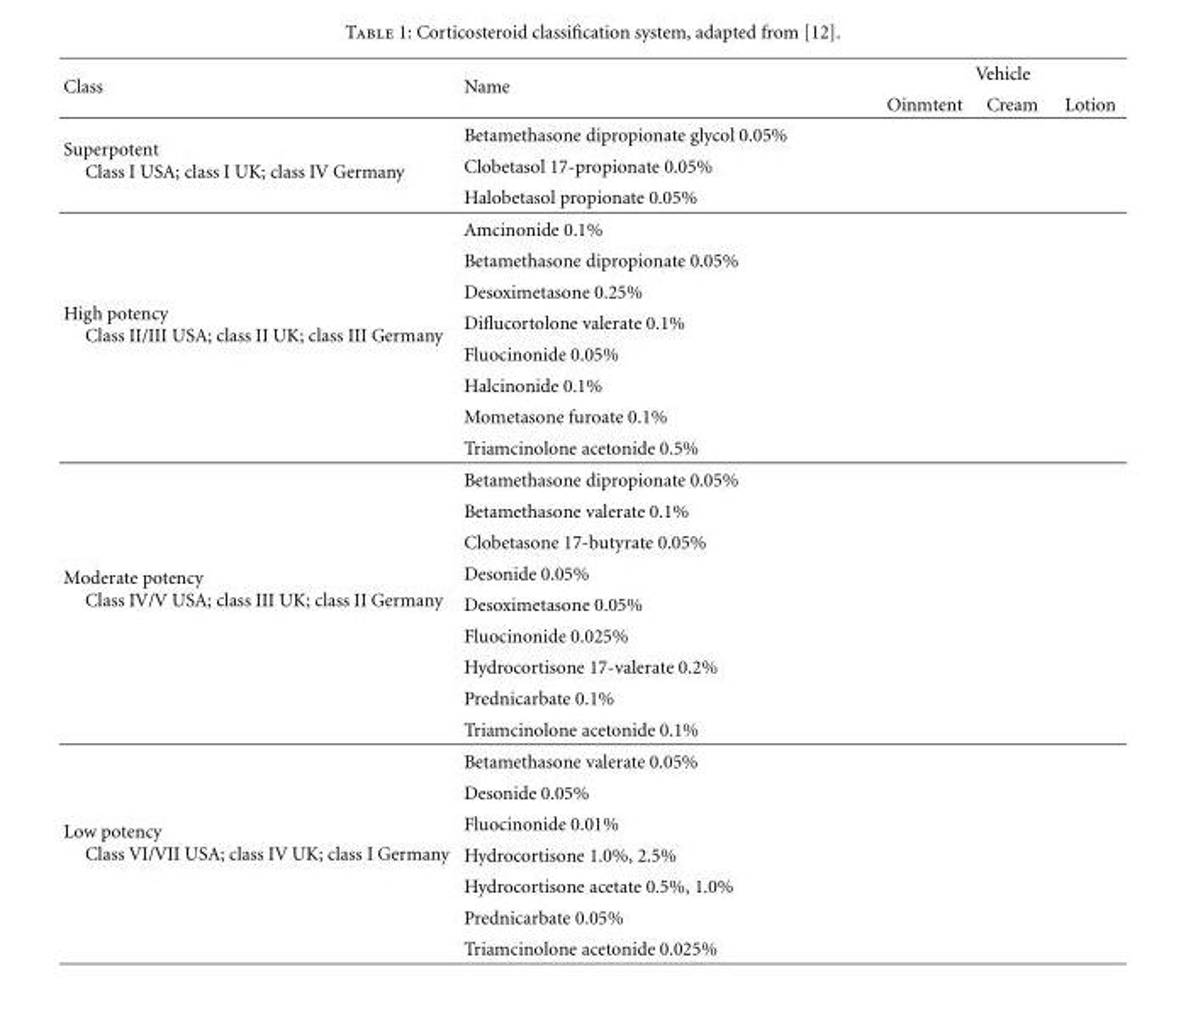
<table><thead><tr><td rowspan="2">Class</td><td rowspan="2">Name</td><td colspan="3">Vehicle</td></tr><tr><td>Oinmtent</td><td>Cream</td><td>Lotion</td></tr></thead><tbody><tr><td rowspan="3">Superpotent Class I USA; class I UK; class IV Germany</td><td>Betamethasone dipropionate glycol 0.05%</td><td></td><td></td><td></td></tr><tr><td>Clobetasol 17-propionate 0.05%</td><td></td><td></td><td></td></tr><tr><td>Halobetasol propionate 0.05%</td><td></td><td></td><td></td></tr><tr><td rowspan="8">High potency Class II/III USA; class II UK; class III Germany</td><td>Amcinonide 0.1%</td><td></td><td></td><td></td></tr><tr><td>Betamethasone dipropionate 0.05%</td><td></td><td></td><td></td></tr><tr><td>Desoximetasone 0.25%</td><td></td><td></td><td></td></tr><tr><td>Diflucortolone valerate 0.1%</td><td></td><td></td><td></td></tr><tr><td>Fluocinonide 0.05%</td><td></td><td></td><td></td></tr><tr><td>Halcinonide 0.1%</td><td></td><td></td><td></td></tr><tr><td>Mometasone furoate 0.1%</td><td></td><td></td><td></td></tr><tr><td>Triamcinolone acetonide 0.5%</td><td></td><td></td><td></td></tr><tr><td rowspan="9">Moderate potency Class IV/V USA; class III UK; class II Germany</td><td>Betamethasone dipropionate 0.05%</td><td></td><td></td><td></td></tr><tr><td>Betamethasone valerate 0.1%</td><td></td><td></td><td></td></tr><tr><td>Clobetasone 17-butyrate 0.05%</td><td></td><td></td><td></td></tr><tr><td>Desonide 0.05%</td><td></td><td></td><td></td></tr><tr><td>Desoximetasone 0.05%</td><td></td><td></td><td></td></tr><tr><td>Fluocinonide 0.025%</td><td></td><td></td><td></td></tr><tr><td>Hydrocortisone 17-valerate 0.2%</td><td></td><td></td><td></td></tr><tr><td>Prednicarbate 0.1%</td><td></td><td></td><td></td></tr><tr><td>Triamcinolone acetonide 0.1%</td><td></td><td></td><td></td></tr><tr><td rowspan="7">Low potency Class VI/VII USA; class IV UK; class I Germany</td><td>Betamethasone valerate 0.05%</td><td></td><td></td><td></td></tr><tr><td>Desonide 0.05%</td><td></td><td></td><td></td></tr><tr><td>Fluocinonide 0.01%</td><td></td><td></td><td></td></tr><tr><td>Hydrocortisone 1.0%, 2.5%</td><td></td><td></td><td></td></tr><tr><td>Hydrocortisone acetate 0.5%, 1.0%</td><td></td><td></td><td></td></tr><tr><td>Prednicarbate 0.05%</td><td></td><td></td><td></td></tr><tr><td>Triamcinolone acetonide 0.025%</td><td></td><td></td><td></td></tr></tbody></table>